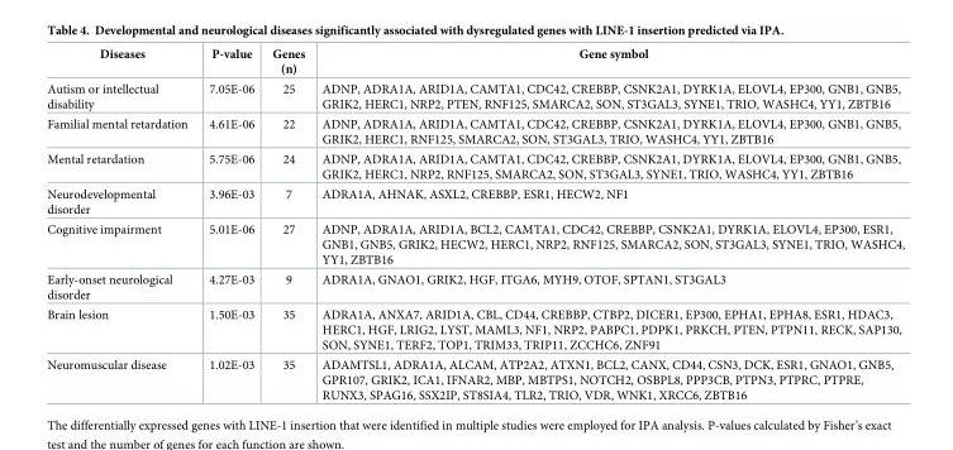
<table><thead><tr><td>Diseases</td><td>P-value</td><td>Genes (n)</td><td>Gene symbol</td></tr></thead><tbody><tr><td>Autism or intellectual disability</td><td>7.05E-06</td><td>25</td><td>ADNP, ADRA1A, ARID1A, CAMTA1, CDC42, CREBBP, CSNK2A1, DYRK1A, ELOVL4, EP300, GNB1, GNB5, GRIK2, HERC1, NRP2, PTEN, RNF125, SMARCA2, SON, ST3GAL3, SYNE1, TRIO, WASHC4, YY1, ZBTB16</td></tr><tr><td>Familial mental retardation</td><td>4.61E-06</td><td>22</td><td>ADNP, ADRA1A, ARID1A, CAMTA1, CDC42, CREBBP, CSNK2A1, DYRK1A, ELOVL4, EP300, GNB1, GNB5, GRIK2, HERC1, RNF125, SMARCA2, SON, ST3GAL3, TRIO, WASHC4, YY1, ZBTB16</td></tr><tr><td>Mental retardation</td><td>5.75E-06</td><td>24</td><td>ADNP, ADRA1A, ARID1A, CAMTA1, CDC42, CREBBP, CSNK2A1, DYRK1A, ELOVL4, EP300, GNB1, GNB5, GRIK2, HERC1, NRP2, RNF125, SMARCA2, SON, ST3GAL3, SYNE1, TRIO, WASHC4, YY1, ZBTB16</td></tr><tr><td>Neurodevelopmental disorder</td><td>3.96E-03</td><td>7</td><td>ADRA1A, AHNAK, ASXL2, CREBBP, ESR1, HECW2, NF1</td></tr><tr><td>Cognitive impairment</td><td>5.01E-06</td><td>27</td><td>ADNP, ADRA1A, ARID1A, BCL2, CAMTA1, CDC42, CREBBP, CSNK2A1, DYRK1A, ELOVL4, EP300, ESR1, GNB1, GNB5, GRIK2, HECW2, HERC1, NRP2, RNF125, SMARCA2, SON, ST3GAL3, SYNE1, TRIO, WASHC4, YY1, ZBTB16</td></tr><tr><td>Early-onset neurological disorder</td><td>4.27E-03</td><td>9</td><td>ADRA1A, GNAO1, GRIK2, HGF, ITGA6, MYH9, OTOF, SPTAN1, ST3GAL3</td></tr><tr><td>Brain lesion</td><td>1.50E-03</td><td>35</td><td>ADRA1A, ANXA7, ARID1A, CBL, CD44, CREBBP, CTBP2, DICER1, EP300, EPHA1, EPHA8, ESR1, HDAC3, HERC1, HGF, LRIG2, LYST, MAML3, NF1, NRP2, PABPC1, PDPK1, PRKCH, PTEN, PTPN11, RECK, SAP130, SON, SYNE1, TERF2, TOP1, TRIM33, TRIP11, ZCCHC6, ZNF91</td></tr><tr><td>Neuromuscular disease</td><td>1.02E-03</td><td>35</td><td>ADAMTSL1, ADRA1A, ALCAM, ATP2A2, ATXN1, BCL2, CANX, CD44, CSN3, DCK, ESR1, GNAO1, GNB5, GPR107, GRIK2, ICA1, IFNAR2, MBP, MBTPS1, NOTCH2, OSBPL8, PPP3CB, PTPN3, PTPRC, PTPRE, RUNX3, SPAG16, SSX2IP, ST8SIA4, TLR2, TRIO, VDR, WNK1, XRCC6, ZBTB16</td></tr></tbody></table>